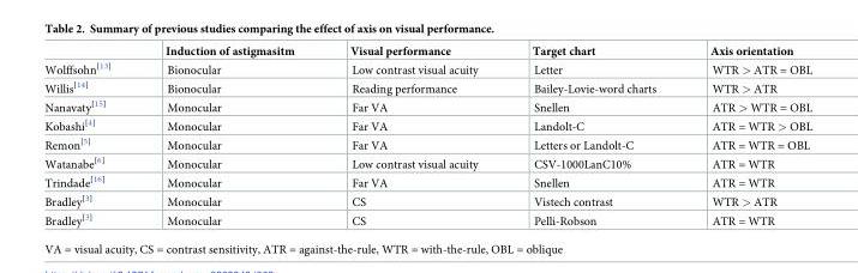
<table><thead><tr><td></td><td>Induction of astigmasitm</td><td>Visual performance</td><td>Target chart</td><td>Axis orientation</td></tr></thead><tbody><tr><td>Wolffsohn<sup>[13]</sup></td><td>Bionocular</td><td>Low contrast visual acuity</td><td>Letter</td><td>WTR &gt; ATR = OBL</td></tr><tr><td>Willis<sup>[14]</sup></td><td>Bionocular</td><td>Reading performance</td><td>Bailey-Lovie-word charts</td><td>WTR &gt; ATR</td></tr><tr><td>Nanavaty<sup>[15]</sup></td><td>Monocular</td><td>Far VA</td><td>Snellen</td><td>ATR &gt; WTR = OBL</td></tr><tr><td>Kobashi<sup>[4]</sup></td><td>Monocular</td><td>Far VA</td><td>Landolt-C</td><td>ATR = WTR &gt; OBL</td></tr><tr><td>Remon<sup>[5]</sup></td><td>Monocular</td><td>Far VA</td><td>Letters or Landolt-C</td><td>ATR = WTR = OBL</td></tr><tr><td>Watanabe<sup>[6]</sup></td><td>Monocular</td><td>Low contrast visual acuity</td><td>CSV-1000LanC10%</td><td>ATR = WTR</td></tr><tr><td>Trindade<sup>[16]</sup></td><td>Monocular</td><td>Far VA</td><td>Snellen</td><td>ATR = WTR</td></tr><tr><td>Bradley<sup>[3]</sup></td><td>Monocular</td><td>CS</td><td>Vistech contrast</td><td>WTR &gt; ATR</td></tr><tr><td>Bradley<sup>[3]</sup></td><td>Monocular</td><td>CS</td><td>Pelli-Robson</td><td>ATR = WTR</td></tr></tbody></table>